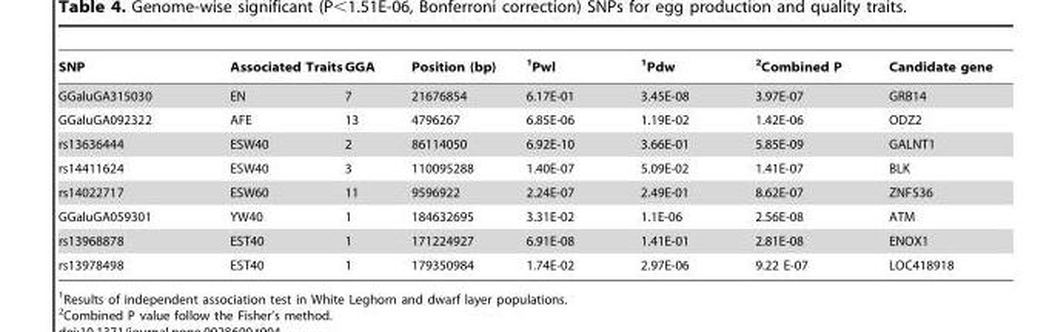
<table><thead><tr><td>SNP</td><td>Associated Traits</td><td>GGA</td><td>Position (bp)</td><td>1Pwl</td><td>1Pdw</td><td>2Combined P</td><td>Candidate gene</td></tr></thead><tbody><tr><td>GGaluGA315030</td><td>EN</td><td>7</td><td>21676854</td><td>6.17E-01</td><td>3.45E-08</td><td>3.97E-07</td><td>GRB14</td></tr><tr><td>GGaluGA092322</td><td>AFE</td><td>13</td><td>4796267</td><td>6.85E-06</td><td>1.19E-02</td><td>1.42E-06</td><td>ODZ2</td></tr><tr><td>rs13636444</td><td>ESW40</td><td>2</td><td>86114050</td><td>6.92E-10</td><td>3.66E-01</td><td>5.85E-09</td><td>GALNT1</td></tr><tr><td>rs14411624</td><td>ESW40</td><td>3</td><td>110095288</td><td>1.40E-07</td><td>5.09E-02</td><td>1.41E-07</td><td>BLK</td></tr><tr><td>rs14022717</td><td>ESW60</td><td>11</td><td>9596922</td><td>2.24E-07</td><td>2.49E-01</td><td>8.62E-07</td><td>ZNF536</td></tr><tr><td>GGaluGA059301</td><td>YW40</td><td>1</td><td>184632695</td><td>3.31E-02</td><td>1.1E-06</td><td>2.56E-08</td><td>ATM</td></tr><tr><td>rs13968878</td><td>EST40</td><td>1</td><td>171224927</td><td>6.91E-08</td><td>1.41E-01</td><td>2.81E-08</td><td>ENOX1</td></tr><tr><td>rs13978498</td><td>EST40</td><td>1</td><td>179350984</td><td>1.74E-02</td><td>2.97E-06</td><td>9.22 E-07</td><td>LOC418918</td></tr></tbody></table>